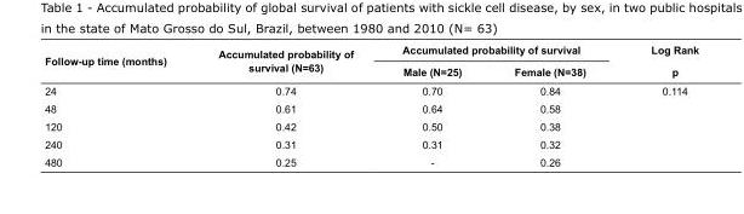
<table><thead><tr><td rowspan="2">Follow-up time (months)</td><td rowspan="2">Accumulated probability of survival (N=63)</td><td colspan="2">Accumulated probability of survival</td><td rowspan="2">Log Rank p</td></tr><tr><td>Male (N=25)</td><td>Female (N=38)</td></tr></thead><tbody><tr><td>24</td><td>0.74</td><td>0.70</td><td>0.84</td><td>0.114</td></tr><tr><td>48</td><td>0.61</td><td>0.64</td><td>0.58</td><td></td></tr><tr><td>120</td><td>0.42</td><td>0.50</td><td>0.38</td><td></td></tr><tr><td>240</td><td>0.31</td><td>0.31</td><td>0.32</td><td></td></tr><tr><td>480</td><td>0.25</td><td>-</td><td>0.26</td><td></td></tr></tbody></table>